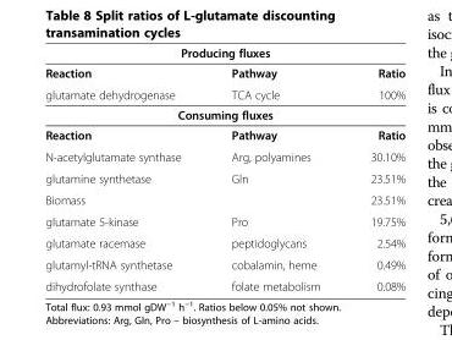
<table><tbody><tr><td colspan="3">Producing fluxes</td></tr><tr><td>Reaction</td><td>Pathway</td><td>Ratio</td></tr><tr><td>glutamate dehydrogenase</td><td>TCA cycle</td><td>100%</td></tr><tr><td colspan="3">Consuming fluxes</td></tr><tr><td>Reaction</td><td>Pathway</td><td>Ratio</td></tr><tr><td>N-acetylglutamate synthase</td><td>Arg, polyamines</td><td>30.10%</td></tr><tr><td>glutamine synthetase</td><td>Gln</td><td>23.51%</td></tr><tr><td>Biomass</td><td></td><td>23.51%</td></tr><tr><td>glutamate 5-kinase</td><td>Pro</td><td>19.75%</td></tr><tr><td>glutamate racemase</td><td>peptidoglycans</td><td>2.54%</td></tr><tr><td>glutamyl-tRNA synthetase</td><td>cobalamin, heme</td><td>0.49%</td></tr><tr><td>dihydrofolate synthase</td><td>folate metabolism</td><td>0.08%</td></tr></tbody></table>